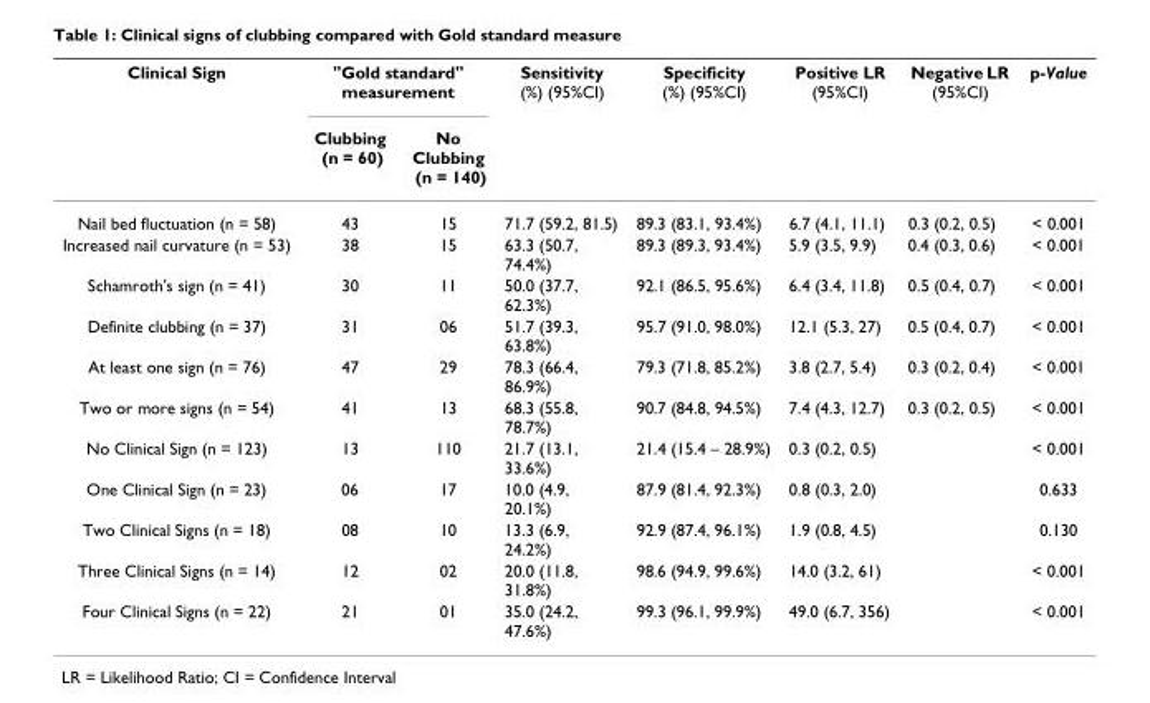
<table><thead><tr><td rowspan="2">Clinical Sign</td><td colspan="2">&quot;Gold standard&quot; measurement</td><td rowspan="2">Sensitivity (%) (95%CI)</td><td rowspan="2">Specificity (%) (95%CI)</td><td rowspan="2">Positive LR (95%CI)</td><td rowspan="2">Negative LR (95%CI)</td><td rowspan="2">p-Value</td></tr><tr><td>Clubbing (n = 60)</td><td>No Clubbing (n = 140)</td></tr></thead><tbody><tr><td>Nail bed fluctuation (n = 58)</td><td>43</td><td>15</td><td>71.7 (59.2, 81.5)</td><td>89.3 (83.1, 93.4%)</td><td>6.7 (4.1, 11.1)</td><td>0.3 (0.2, 0.5)</td><td>&lt; 0.001</td></tr><tr><td>Increased nail curvature (n = 53)</td><td>38</td><td>15</td><td>63.3 (50.7, 74.4%)</td><td>89.3 (89.3, 93.4%)</td><td>5.9 (3.5, 9.9)</td><td>0.4 (0.3, 0.6)</td><td>&lt; 0.001</td></tr><tr><td>Schamroth&#x27;s sign (n = 41)</td><td>30</td><td>11</td><td>50.0 (37.7, 62.3%)</td><td>92.1 (86.5, 95.6%)</td><td>6.4 (3.4, 11.8)</td><td>0.5 (0.4, 0.7)</td><td>&lt; 0.001</td></tr><tr><td>Definite clubbing (n = 37)</td><td>31</td><td>06</td><td>51.7 (39.3, 63.8%)</td><td>95.7 (91.0, 98.0%)</td><td>12.1 (5.3, 27)</td><td>0.5 (0.4, 0.7)</td><td>&lt; 0.001</td></tr><tr><td>At least one sign (n = 76)</td><td>47</td><td>29</td><td>78.3 (66.4, 86.9%)</td><td>79.3 (71.8, 85.2%)</td><td>3.8 (2.7, 5.4)</td><td>0.3 (0.2, 0.4)</td><td>&lt; 0.001</td></tr><tr><td>Two or more signs (n = 54)</td><td>41</td><td>13</td><td>68.3 (55.8, 78.7%)</td><td>90.7 (84.8, 94.5%)</td><td>7.4 (4.3, 12.7)</td><td>0.3 (0.2, 0.5)</td><td>&lt; 0.001</td></tr><tr><td>No Clinical Sign (n = 123)</td><td>13</td><td>110</td><td>21.7 (13.1, 33.6%)</td><td>21.4 (15.4 – 28.9%)</td><td>0.3 (0.2, 0.5)</td><td></td><td>&lt; 0.001</td></tr><tr><td>One Clinical Sign (n = 23)</td><td>06</td><td>17</td><td>10.0 (4.9, 20.1%)</td><td>87.9 (81.4, 92.3%)</td><td>0.8 (0.3, 2.0)</td><td></td><td>0.633</td></tr><tr><td>Two Clinical Signs (n = 18)</td><td>08</td><td>10</td><td>13.3 (6.9, 24.2%)</td><td>92.9 (87.4, 96.1%)</td><td>1.9 (0.8, 4.5)</td><td></td><td>0.130</td></tr><tr><td>Three Clinical Signs (n = 14)</td><td>12</td><td>02</td><td>20.0 (11.8, 31.8%)</td><td>98.6 (94.9, 99.6%)</td><td>14.0 (3.2, 61)</td><td></td><td>&lt; 0.001</td></tr><tr><td>Four Clinical Signs (n = 22)</td><td>21</td><td>01</td><td>35.0 (24.2, 47.6%)</td><td>99.3 (96.1, 99.9%)</td><td>49.0 (6.7, 356)</td><td></td><td>&lt; 0.001</td></tr></tbody></table>